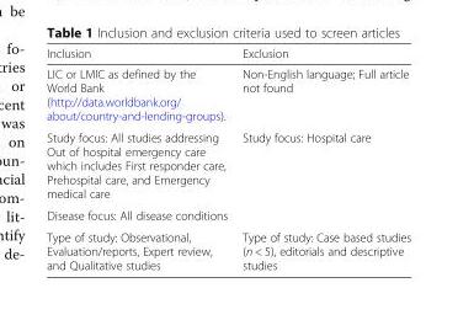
<table><thead><tr><td>Inclusion</td><td>Exclusion</td></tr></thead><tbody><tr><td>LIC or LMIC as defined by the World Bank (http://data.worldbank.org/ about/country-and-lending-groups).</td><td>Non-English language; Full article not found</td></tr><tr><td>Study focus: All studies addressing Out of hospital emergency care which includes First responder care, Prehospital care, and Emergency medical care</td><td>Study focus: Hospital care</td></tr><tr><td colspan="2">Disease focus: All disease conditions</td></tr><tr><td>Type of study: Observational, Evaluation/reports, Expert review, and Qualitative studies</td><td>Type of study: Case based studies (n &lt; 5), editorials and descriptive studies</td></tr></tbody></table>